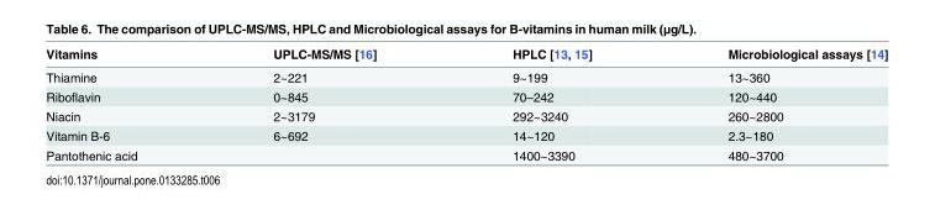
<table><thead><tr><td>Vitamins</td><td>UPLC-MS/MS [16]</td><td>HPLC [13, 15]</td><td>Microbiological assays [14]</td></tr></thead><tbody><tr><td>Thiamine</td><td>2~221</td><td>9~199</td><td>13~360</td></tr><tr><td>Riboflavin</td><td>0~845</td><td>70–242</td><td>120~440</td></tr><tr><td>Niacin</td><td>2~3179</td><td>292~3240</td><td>260~2800</td></tr><tr><td>Vitamin B-6</td><td>6~692</td><td>14~120</td><td>2.3~180</td></tr><tr><td>Pantothenic acid</td><td></td><td>1400~3390</td><td>480~3700</td></tr></tbody></table>